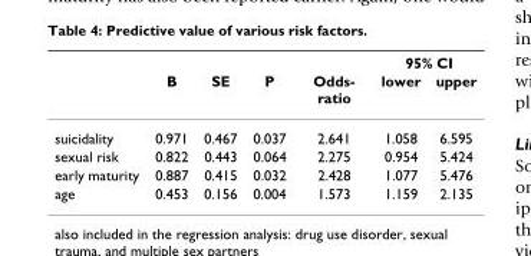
<table><thead><tr><td rowspan="2"></td><td rowspan="2">B</td><td rowspan="2">SE</td><td rowspan="2">P</td><td rowspan="2">Odds- ratio</td><td colspan="2">95% CI</td></tr><tr><td>lower</td><td>upper</td></tr></thead><tbody><tr><td>suicidality</td><td>0.971</td><td>0.467</td><td>0.037</td><td>2.641</td><td>1.058</td><td>6.595</td></tr><tr><td>sexual risk</td><td>0.822</td><td>0.443</td><td>0.064</td><td>2.275</td><td>0.954</td><td>5.424</td></tr><tr><td>early maturity</td><td>0.887</td><td>0.415</td><td>0.032</td><td>2.428</td><td>1.077</td><td>5.476</td></tr><tr><td>age</td><td>0.453</td><td>0.156</td><td>0.004</td><td>1.573</td><td>1.159</td><td>2.135</td></tr></tbody></table>